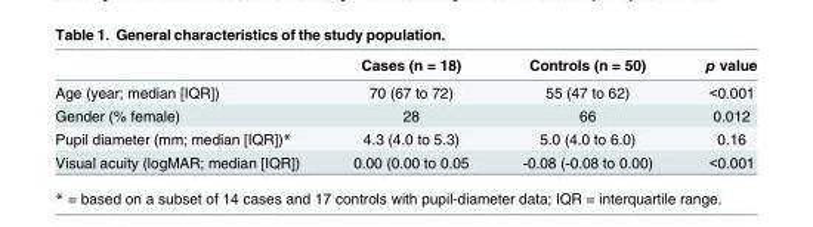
<table><thead><tr><td></td><td>Cases (n = 18)</td><td>Controls (n = 50)</td><td>p value</td></tr></thead><tbody><tr><td>Age (year; median [IQR])</td><td>70 (67 to 72)</td><td>55 (47 to 62)</td><td>&lt;0.001</td></tr><tr><td>Gender (% female)</td><td>28</td><td>66</td><td>0.012</td></tr><tr><td>Pupil diameter (mm; median [IQR])*</td><td>4.3 (4.0 to 5.3)</td><td>5.0 (4.0 to 6.0)</td><td>0.16</td></tr><tr><td>Visual acuity (logMAR; median [IQR])</td><td>0.00 (0.00 to 0.05</td><td>-0.08 (-0.08 to 0.00)</td><td>&lt;0.001</td></tr></tbody></table>